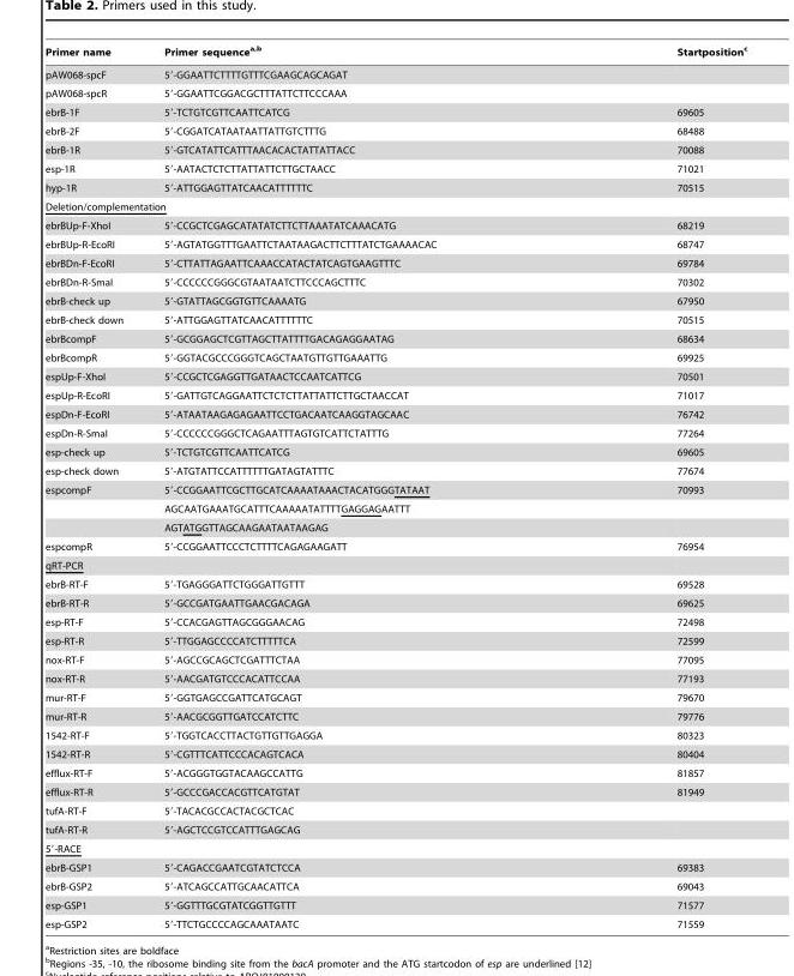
<table><thead><tr><td>Primer name</td><td>Primer sequencea,b</td><td>Startposition<sup>c</sup></td></tr></thead><tbody><tr><td>pAW068-spcF</td><td>5′-GGAATTCTTTTGTTTCGAAGCAGCAGAT</td><td></td></tr><tr><td>pAW068-spcR</td><td>5′-GGAATTCGGACGCTTTATTCTTCCCAAA</td><td></td></tr><tr><td>ebrB-1F</td><td>5′-TCTGTCGTTCAATTCATCG</td><td>69605</td></tr><tr><td>ebrB-2F</td><td>5′-CGGATCATAATAATTATTGTCTTTG</td><td>68488</td></tr><tr><td>ebrB-1R</td><td>5′-GTCATATTCATTTAACACACTATTATTACC</td><td>70088</td></tr><tr><td>esp-1R</td><td>5′-AATACTCTCTTATTATTCTTGCTAACC</td><td>71021</td></tr><tr><td>hyp-1R</td><td>5′-ATTGGAGTTATCAACATTTTTTC</td><td>70515</td></tr><tr><td colspan="3">Deletion/complementation</td></tr><tr><td>ebrBUp-F-XhoI</td><td>5′-CCGCTCGAGCATATATCTTCTTAAATATCAAACATG</td><td>68219</td></tr><tr><td>ebrBUp-R-EcoRI</td><td>5′-AGTATGGTTTGAATTCTAATAAGACTTCTTTATCTGAAAACAC</td><td>68747</td></tr><tr><td>ebrBDn-F-EcoRI</td><td>5′-CTTATTAGAATTCAAACCATACTATCAGTGAAGTTTC</td><td>69784</td></tr><tr><td>ebrBDn-R-SmaI</td><td>5′-CCCCCCGGGCGTAATAATCTTCCCAGCTTTC</td><td>70302</td></tr><tr><td>ebrB-check up</td><td>5′-GTATTAGCGGTGTTCAAAATG</td><td>67950</td></tr><tr><td>ebrB-check down</td><td>5′-ATTGGAGTTATCAACATTTTTTC</td><td>70515</td></tr><tr><td>ebrBcompF</td><td>5′-GCGGAGCTCGTTAGCTTATTTTGACAGAGGAATAG</td><td>68634</td></tr><tr><td>ebrBcompR</td><td>5′-GGTACGCCCGGGTCAGCTAATGTTGTTGAAATTG</td><td>69925</td></tr><tr><td>espUp-F-XhoI</td><td>5′-CCGCTCGAGGTTGATAACTCCAATCATTCG</td><td>70501</td></tr><tr><td>espUp-R-EcoRI</td><td>5′-GATTGTCAGGAATTCTCTCTTATTATTCTTGCTAACCAT</td><td>71017</td></tr><tr><td>espDn-F-EcoRI</td><td>5′-ATAATAAGAGAGAATTCCTGACAATCAAGGTAGCAAC</td><td>76742</td></tr><tr><td>espDn-R-SmaI</td><td>5′-CCCCCCGGGCTCAGAATTTAGTGTCATTCTATTTG</td><td>77264</td></tr><tr><td>esp-check up</td><td>5′-TCTGTCGTTCAATTCATCG</td><td>69605</td></tr><tr><td>esp-check down</td><td>5′-ATGTATTCCATTTTTTGATAGTATTTC</td><td>77674</td></tr><tr><td rowspan="3">espcompF</td><td>5′-CCGGAATTCGCTTGCATCAAAATAAACTACATGGGTATAAT</td><td>70993</td></tr><tr><td>AGCAATGAAATGCATTTCAAAAATATTTTGAGGAGAATTT</td><td></td></tr><tr><td>AGTATGGTTAGCAAGAATAATAAGAG</td><td></td></tr><tr><td>espcompR</td><td>5′-CCGGAATTCCCTCTTTTCAGAGAAGATT</td><td>76954</td></tr><tr><td colspan="3">qRT-PCR</td></tr><tr><td>ebrB-RT-F</td><td>5′-TGAGGGATTCTGGGATTGTTT</td><td>69528</td></tr><tr><td>ebrB-RT-R</td><td>5′-GCCGATGAATTGAACGACAGA</td><td>69625</td></tr><tr><td>esp-RT-F</td><td>5′-CCACGAGTTAGCGGGAACAG</td><td>72498</td></tr><tr><td>esp-RT-R</td><td>5′-TTGGAGCCCCATCTTTTTCA</td><td>72599</td></tr><tr><td>nox-RT-F</td><td>5′-AGCCGCAGCTCGATTTCTAA</td><td>77095</td></tr><tr><td>nox-RT-R</td><td>5′-AACGATGTCCCACATTCCAA</td><td>77193</td></tr><tr><td>mur-RT-F</td><td>5′-GGTGAGCCGATTCATGCAGT</td><td>79670</td></tr><tr><td>mur-RT-R</td><td>5′-AACGCGGTTGATCCATCTTC</td><td>79776</td></tr><tr><td>1542-RT-F</td><td>5′-TGGTCACCTTACTGTTGTTGAGGA</td><td>80323</td></tr><tr><td>1542-RT-R</td><td>5′-CGTTTCATTCCCACAGTCACA</td><td>80404</td></tr><tr><td>efflux-RT-F</td><td>5′-ACGGGTGGTACAAGCCATTG</td><td>81857</td></tr><tr><td>efflux-RT-R</td><td>5′-GCCCGACCACGTTCATGTAT</td><td>81949</td></tr><tr><td>tufA-RT-F</td><td>5′-TACACGCCACTACGCTCAC</td><td></td></tr><tr><td>tufA-RT-R</td><td>5′-AGCTCCGTCCATTTGAGCAG</td><td></td></tr><tr><td colspan="3">5′-RACE</td></tr><tr><td>ebrB-GSP1</td><td>5′-CAGACCGAATCGTATCTCCA</td><td>69383</td></tr><tr><td>ebrB-GSP2</td><td>5′-ATCAGCCATTGCAACATTCA</td><td>69043</td></tr><tr><td>esp-GSP1</td><td>5′-GGTTTGCGTATCGGTTGTTT</td><td>71577</td></tr><tr><td>esp-GSP2</td><td>5′-TTCTGCCCCAGCAAATAATC</td><td>71559</td></tr></tbody></table>